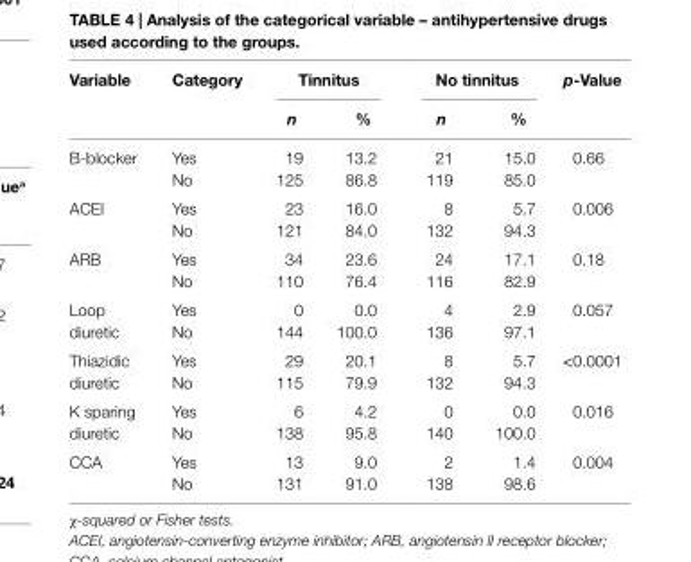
<table><thead><tr><td rowspan="2">Variable</td><td rowspan="2">category</td><td colspan="2">Tinnitus</td><td colspan="2">no tinnitus</td><td rowspan="2">p-Value</td></tr><tr><td>n</td><td>%</td><td>n</td><td>%</td></tr></thead><tbody><tr><td rowspan="2">B-blocker</td><td>Yes</td><td>19</td><td>13.2</td><td>21</td><td>15.0</td><td rowspan="2">0.66</td></tr><tr><td>No</td><td>125</td><td>86.8</td><td>119</td><td>85.0</td></tr><tr><td rowspan="2">ACEI</td><td>Yes</td><td>23</td><td>16.0</td><td>8</td><td>5.7</td><td rowspan="2">0.006</td></tr><tr><td>No</td><td>121</td><td>84.0</td><td>132</td><td>94.3</td></tr><tr><td rowspan="2">ARB</td><td>Yes</td><td>34</td><td>23.6</td><td>24</td><td>17.1</td><td rowspan="2">0.18</td></tr><tr><td>No</td><td>110</td><td>76.4</td><td>116</td><td>82.9</td></tr><tr><td rowspan="2">Loop diuretic</td><td>Yes</td><td>0</td><td>0.0</td><td>4</td><td>2.9</td><td rowspan="2">0.057</td></tr><tr><td>No</td><td>144</td><td>100.0</td><td>136</td><td>97.1</td></tr><tr><td rowspan="2">Thiazidic diuretic</td><td>Yes</td><td>29</td><td>20.1</td><td>8</td><td>5.7</td><td rowspan="2">&lt;0.0001</td></tr><tr><td>No</td><td>115</td><td>79.9</td><td>132</td><td>94.3</td></tr><tr><td rowspan="2">K sparing diuretic</td><td>Yes</td><td>6</td><td>4.2</td><td>0</td><td>0.0</td><td rowspan="2">0.016</td></tr><tr><td>No</td><td>138</td><td>95.8</td><td>140</td><td>100.0</td></tr><tr><td rowspan="2">CCA</td><td>Yes</td><td>13</td><td>9.0</td><td>2</td><td>1.4</td><td rowspan="2">0.004</td></tr><tr><td>No</td><td>131</td><td>91.0</td><td>138</td><td>98.6</td></tr></tbody></table>